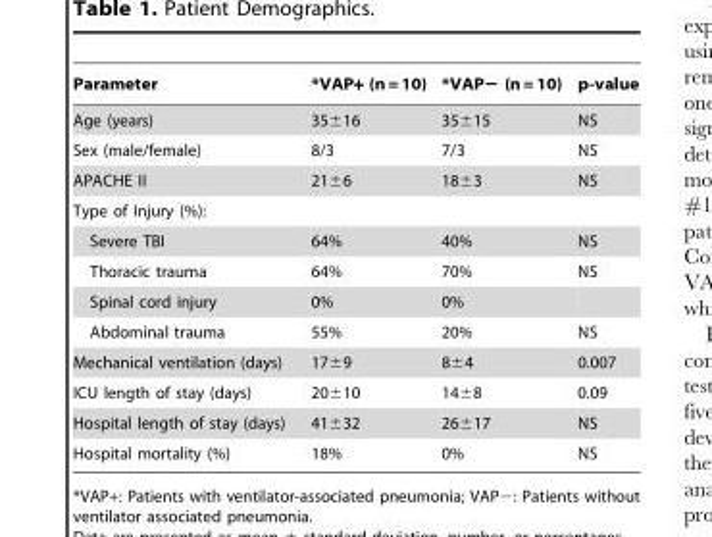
<table><thead><tr><td>Parameter</td><td>*VAP+ (n = 10)</td><td>*VAP− (n = 10)</td><td>p-value</td></tr></thead><tbody><tr><td>Age (years)</td><td>35±16</td><td>35±15</td><td>NS</td></tr><tr><td>Sex (male/female)</td><td>8/3</td><td>7/3</td><td>NS</td></tr><tr><td>APACHE II</td><td>21±6</td><td>18±3</td><td>NS</td></tr><tr><td colspan="4">Type of Injury (%):</td></tr><tr><td>Severe TBI</td><td>64%</td><td>40%</td><td>NS</td></tr><tr><td>Thoracic trauma</td><td>64%</td><td>70%</td><td>NS</td></tr><tr><td>Spinal cord injury</td><td>0%</td><td>0%</td><td></td></tr><tr><td>Abdominal trauma</td><td>55%</td><td>20%</td><td>NS</td></tr><tr><td>Mechanical ventilation (days)</td><td>17±9</td><td>8±4</td><td>0.007</td></tr><tr><td>ICU length of stay (days)</td><td>20±10</td><td>14±8</td><td>0.09</td></tr><tr><td>Hospital length of stay (days)</td><td>41±32</td><td>26±17</td><td>NS</td></tr><tr><td>Hospital mortality (%)</td><td>18%</td><td>0%</td><td>NS</td></tr></tbody></table>